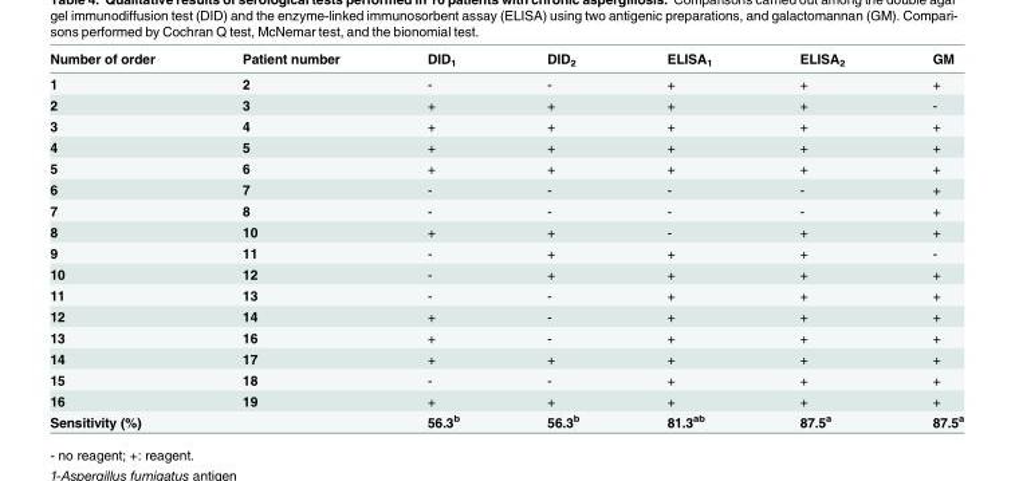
<table><thead><tr><td>Number of order</td><td>Patient number</td><td>DID<sub>1</sub></td><td>DID<sub>2</sub></td><td>ELISA<sub>1</sub></td><td>ELISA<sub>2</sub></td><td>GM</td></tr></thead><tbody><tr><td>1</td><td>2</td><td>-</td><td>-</td><td>+</td><td>+</td><td>+</td></tr><tr><td>2</td><td>3</td><td>+</td><td>+</td><td>+</td><td>+</td><td>-</td></tr><tr><td>3</td><td>4</td><td>+</td><td>+</td><td>+</td><td>+</td><td>+</td></tr><tr><td>4</td><td>5</td><td>+</td><td>+</td><td>+</td><td>+</td><td>+</td></tr><tr><td>5</td><td>6</td><td>+</td><td>+</td><td>+</td><td>+</td><td>+</td></tr><tr><td>6</td><td>7</td><td>-</td><td>-</td><td>-</td><td>-</td><td>+</td></tr><tr><td>7</td><td>8</td><td>-</td><td>-</td><td>-</td><td>-</td><td>+</td></tr><tr><td>8</td><td>10</td><td>+</td><td>+</td><td>-</td><td>+</td><td>+</td></tr><tr><td>9</td><td>11</td><td>-</td><td>+</td><td>+</td><td>+</td><td>-</td></tr><tr><td>10</td><td>12</td><td>-</td><td>+</td><td>+</td><td>+</td><td>+</td></tr><tr><td>11</td><td>13</td><td>-</td><td>-</td><td>+</td><td>+</td><td>+</td></tr><tr><td>12</td><td>14</td><td>+</td><td>-</td><td>+</td><td>+</td><td>+</td></tr><tr><td>13</td><td>16</td><td>+</td><td>-</td><td>+</td><td>+</td><td>+</td></tr><tr><td>14</td><td>17</td><td>+</td><td>+</td><td>+</td><td>+</td><td>+</td></tr><tr><td>15</td><td>18</td><td>-</td><td>-</td><td>+</td><td>+</td><td>+</td></tr><tr><td>16</td><td>19</td><td>+</td><td>+</td><td>+</td><td>+</td><td>+</td></tr><tr><td>Sensitivity (%)</td><td></td><td>56.3<sup>b</sup></td><td>56.3<sup>b</sup></td><td>81.3<sup>ab</sup></td><td>87.5<sup>a</sup></td><td>87.5<sup>a</sup></td></tr></tbody></table>